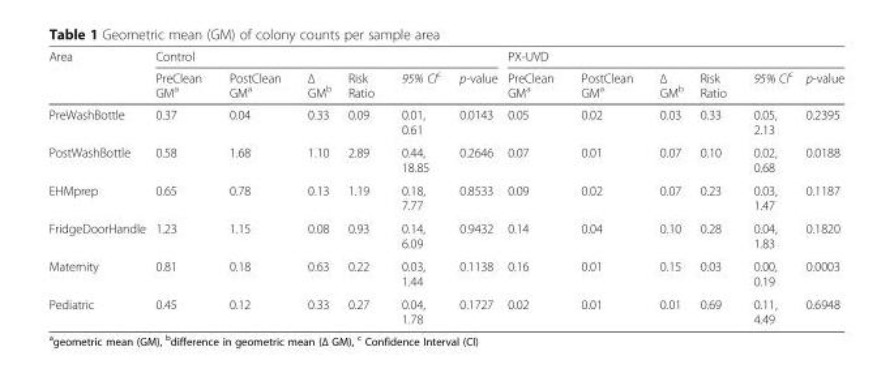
<table><thead><tr><td rowspan="2">Area</td><td colspan="6">Control</td><td colspan="6">PX-UVD</td></tr><tr><td>PreClean GM<sup>a</sup></td><td>PostClean GM<sup>a</sup></td><td>Δ GMb</td><td>Risk Ratio</td><td>95% CI<sup>c</sup></td><td>p-value</td><td>PreClean GM<sup>a</sup></td><td>PostClean GM<sup>a</sup></td><td>Δ GMb</td><td>Risk Ratio</td><td>95% CI<sup>c</sup></td><td>p-value</td></tr></thead><tbody><tr><td>PreWashBottle</td><td>0.37</td><td>0.04</td><td>0.33</td><td>0.09</td><td>0.01, 0.61</td><td>0.0143</td><td>0.05</td><td>0.02</td><td>0.03</td><td>0.33</td><td>0.05, 2.13</td><td>0.2395</td></tr><tr><td>PostWashBottle</td><td>0.58</td><td>1.68</td><td>1.10</td><td>2.89</td><td>0.44, 18.85</td><td>0.2646</td><td>0.07</td><td>0.01</td><td>0.07</td><td>0.10</td><td>0.02, 0.68</td><td>0.0188</td></tr><tr><td>EHMprep</td><td>0.65</td><td>0.78</td><td>0.13</td><td>1.19</td><td>0.18, 7.77</td><td>0.8533</td><td>0.09</td><td>0.02</td><td>0.07</td><td>0.23</td><td>0.03, 1.47</td><td>0.1187</td></tr><tr><td>FridgeDoorHandle</td><td>1.23</td><td>1.15</td><td>0.08</td><td>0.93</td><td>0.14, 6.09</td><td>0.9432</td><td>0.14</td><td>0.04</td><td>0.10</td><td>0.28</td><td>0.04, 1.83</td><td>0.1820</td></tr><tr><td>Maternity</td><td>0.81</td><td>0.18</td><td>0.63</td><td>0.22</td><td>0.03, 1.44</td><td>0.1138</td><td>0.16</td><td>0.01</td><td>0.15</td><td>0.03</td><td>0.00, 0.19</td><td>0.0003</td></tr><tr><td>Pediatric</td><td>0.45</td><td>0.12</td><td>0.33</td><td>0.27</td><td>0.04, 1.78</td><td>0.1727</td><td>0.02</td><td>0.01</td><td>0.01</td><td>0.69</td><td>0.11, 4.49</td><td>0.6948</td></tr></tbody></table>